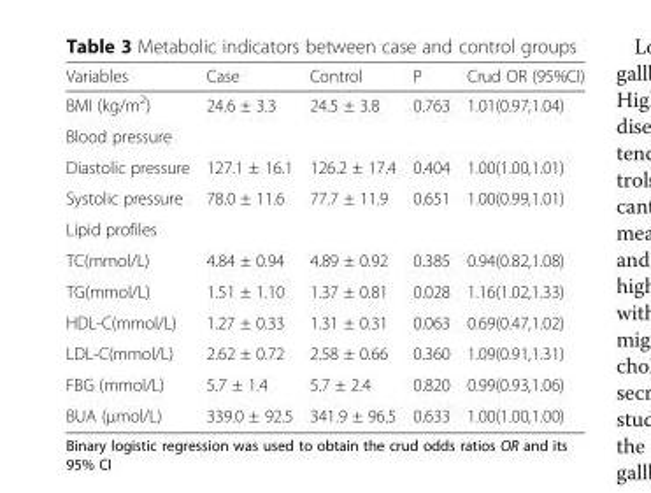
<table><thead><tr><td>Variables</td><td>Case</td><td>Control</td><td>P</td><td>Crud OR (95%CI)</td></tr></thead><tbody><tr><td>BMI (kg/m<sup>2</sup>)</td><td>24.6 ± 3.3</td><td>24.5 ± 3.8</td><td>0.763</td><td>1.01(0.97,1.04)</td></tr><tr><td colspan="5">Blood pressure</td></tr><tr><td>Diastolic pressure</td><td>127.1 ± 16.1</td><td>126.2 ± 17.4</td><td>0.404</td><td>1.00(1.00,1.01)</td></tr><tr><td>Systolic pressure</td><td>78.0 ± 11.6</td><td>77.7 ± 11.9</td><td>0.651</td><td>1.00(0.99,1.01)</td></tr><tr><td colspan="5">Lipid profiles</td></tr><tr><td>TC(mmol/L)</td><td>4.84 ± 0.94</td><td>4.89 ± 0.92</td><td>0.385</td><td>0.94(0.82,1.08)</td></tr><tr><td>TG(mmol/L)</td><td>1.51 ± 1.10</td><td>1.37 ± 0.81</td><td>0.028</td><td>1.16(1.02,1.33)</td></tr><tr><td>HDL-C(mmol/L)</td><td>1.27 ± 0.33</td><td>1.31 ± 0.31</td><td>0.063</td><td>0.69(0.47,1.02)</td></tr><tr><td>LDL-C(mmol/L)</td><td>2.62 ± 0.72</td><td>2.58 ± 0.66</td><td>0.360</td><td>1.09(0.91,1.31)</td></tr><tr><td>FBG (mmol/L)</td><td>5.7 ± 1.4</td><td>5.7 ± 2.4</td><td>0.820</td><td>0.99(0.93,1.06)</td></tr><tr><td>BUA (μmol/L)</td><td>339.0 ± 92.5</td><td>341.9 ± 96.5</td><td>0.633</td><td>1.00(1.00,1.00)</td></tr></tbody></table>